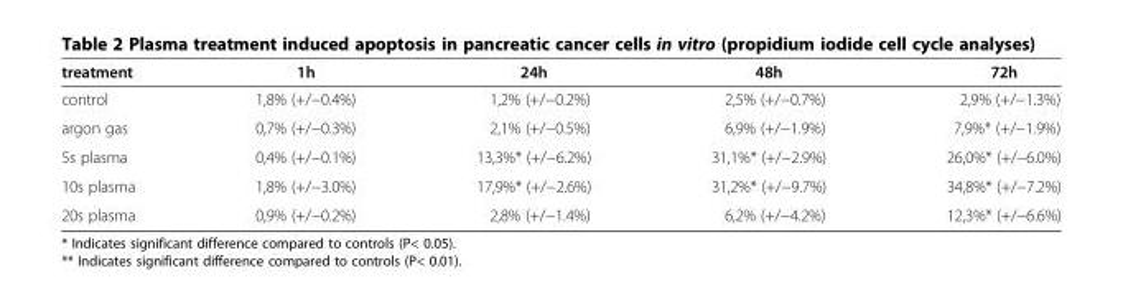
<table><thead><tr><td>treatment</td><td>1h</td><td>24h</td><td>48h</td><td>72h</td></tr></thead><tbody><tr><td>control</td><td>1,8% (+/−0.4%)</td><td>1,2% (+/−0.2%)</td><td>2,5% (+/−0.7%)</td><td>2,9% (+/−1.3%)</td></tr><tr><td>argon gas</td><td>0,7% (+/−0.3%)</td><td>2,1% (+/−0.5%)</td><td>6,9% (+/−1.9%)</td><td>7,9%* (+/−1.9%)</td></tr><tr><td>5s plasma</td><td>0,4% (+/−0.1%)</td><td>13,3%* (+/−6.2%)</td><td>31,1%* (+/−2.9%)</td><td>26,0%* (+/−6.0%)</td></tr><tr><td>10s plasma</td><td>1,8% (+/−3.0%)</td><td>17,9%* (+/−2.6%)</td><td>31,2%* (+/−9.7%)</td><td>34,8%* (+/−7.2%)</td></tr><tr><td>20s plasma</td><td>0,9% (+/−0.2%)</td><td>2,8% (+/−1.4%)</td><td>6,2% (+/−4.2%)</td><td>12,3%* (+/−6.6%)</td></tr></tbody></table>